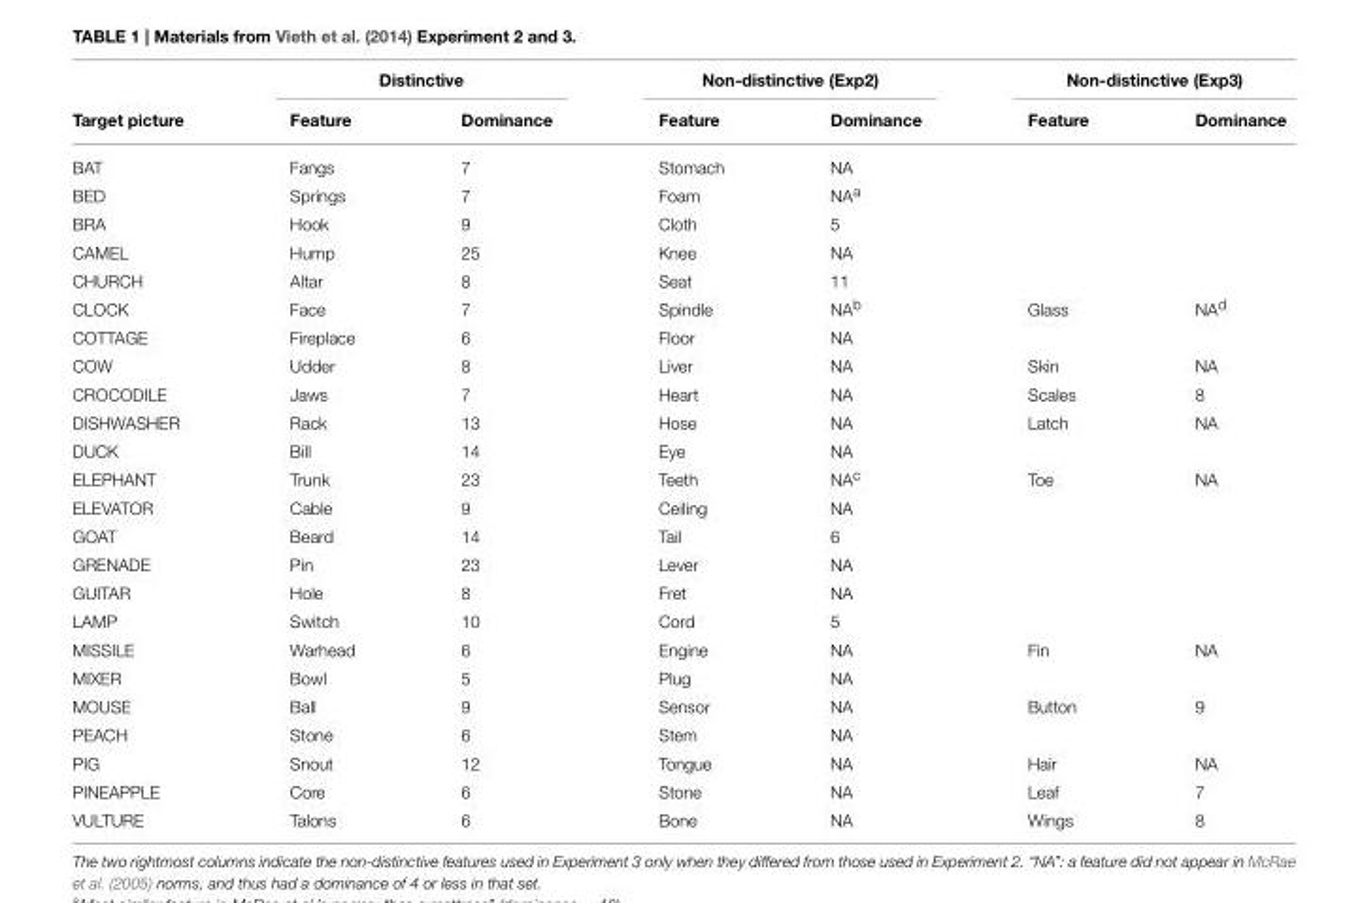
<table><thead><tr><td rowspan="2">Target picture</td><td colspan="2">Distinctive</td><td colspan="2">Non-distinctive (Exp2)</td><td colspan="2">Non-distinctive (Exp3)</td></tr><tr><td>Feature</td><td>Dominance</td><td>Feature</td><td>Dominance</td><td>Feature</td><td>Dominance</td></tr></thead><tbody><tr><td>BAT</td><td>Fangs</td><td>7</td><td>Stomach</td><td>NA</td><td></td><td></td></tr><tr><td>BED</td><td>Springs</td><td>7</td><td>Foam</td><td>NA<sup>a</sup></td><td></td><td></td></tr><tr><td>BRA</td><td>Hook</td><td>9</td><td>Cloth</td><td>5</td><td></td><td></td></tr><tr><td>CAMEL</td><td>Hump</td><td>25</td><td>Knee</td><td>NA</td><td></td><td></td></tr><tr><td>CHURCH</td><td>Altar</td><td>8</td><td>Seat</td><td>11</td><td></td><td></td></tr><tr><td>CLOCK</td><td>Face</td><td>7</td><td>Spindle</td><td>NA<sup>b</sup></td><td>Glass</td><td>NA<sup>d</sup></td></tr><tr><td>COTTAGE</td><td>Fireplace</td><td>6</td><td>Floor</td><td>NA</td><td></td><td></td></tr><tr><td>COW</td><td>Udder</td><td>8</td><td>Liver</td><td>NA</td><td>Skin</td><td>NA</td></tr><tr><td>CROCODILE</td><td>Jaws</td><td>7</td><td>Heart</td><td>NA</td><td>Scales</td><td>8</td></tr><tr><td>DISHWASHER</td><td>Rack</td><td>13</td><td>Hose</td><td>NA</td><td>Latch</td><td>NA</td></tr><tr><td>DUCK</td><td>Bill</td><td>14</td><td>Eye</td><td>NA</td><td></td><td></td></tr><tr><td>ELEPHANT</td><td>Trunk</td><td>23</td><td>Teeth</td><td>NA<sup>c</sup></td><td>Toe</td><td>NA</td></tr><tr><td>ELEVATOR</td><td>Cable</td><td>9</td><td>Ceiling</td><td>NA</td><td></td><td></td></tr><tr><td>GOAT</td><td>Beard</td><td>14</td><td>Tail</td><td>6</td><td></td><td></td></tr><tr><td>GRENADE</td><td>Pin</td><td>23</td><td>Lever</td><td>NA</td><td></td><td></td></tr><tr><td>GUITAR</td><td>Hole</td><td>8</td><td>Fret</td><td>NA</td><td></td><td></td></tr><tr><td>LAMP</td><td>Switch</td><td>10</td><td>Cord</td><td>5</td><td></td><td></td></tr><tr><td>MISSILE</td><td>Warhead</td><td>6</td><td>Engine</td><td>NA</td><td>Fin</td><td>NA</td></tr><tr><td>MIXER</td><td>Bowl</td><td>5</td><td>Plug</td><td>NA</td><td></td><td></td></tr><tr><td>MOUSE</td><td>Ball</td><td>9</td><td>Sensor</td><td>NA</td><td>Button</td><td>9</td></tr><tr><td>PEACH</td><td>Stone</td><td>6</td><td>Stem</td><td>NA</td><td></td><td></td></tr><tr><td>PIG</td><td>Snout</td><td>12</td><td>Tongue</td><td>NA</td><td>Hair</td><td>NA</td></tr><tr><td>PINEAPPLE</td><td>Core</td><td>6</td><td>Stone</td><td>NA</td><td>Leaf</td><td>7</td></tr><tr><td>VULTURE</td><td>Talons</td><td>6</td><td>Bone</td><td>NA</td><td>Wings</td><td>8</td></tr></tbody></table>